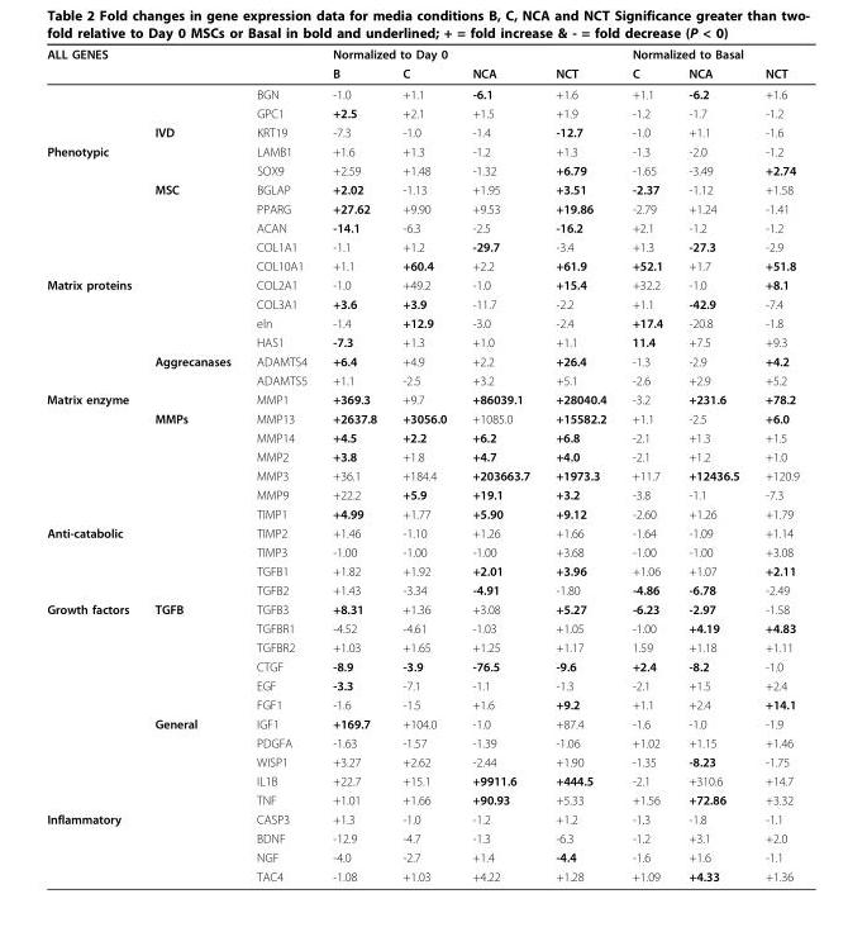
<table><thead><tr><td colspan="3">ALL GENES</td><td colspan="4">Normalized to Day 0</td><td colspan="3">Normalized to Basal</td></tr><tr><td></td><td></td><td></td><td>B</td><td>C</td><td>NCA</td><td>NCT</td><td>C</td><td>NCA</td><td>NCT</td></tr></thead><tbody><tr><td></td><td></td><td>BGN</td><td>-1.0</td><td>+1.1</td><td>-6.1</td><td>+1.6</td><td>+1.1</td><td>-6.2</td><td>+1.6</td></tr><tr><td></td><td></td><td>GPC1</td><td>+2.5</td><td>+2.1</td><td>+1.5</td><td>+1.9</td><td>-1.2</td><td>-1.7</td><td>-1.2</td></tr><tr><td></td><td>IVD</td><td>KRT19</td><td>-7.3</td><td>-1.0</td><td>-1.4</td><td>-12.7</td><td>-1.0</td><td>+1.1</td><td>-1.6</td></tr><tr><td rowspan="7">Phenotypic</td><td></td><td>LAMB1</td><td>+1.6</td><td>+1.3</td><td>-1.2</td><td>+1.3</td><td>-1.3</td><td>-2.0</td><td>-1.2</td></tr><tr><td></td><td>SOX9</td><td>+2.59</td><td>+1.48</td><td>-1.32</td><td>+6.79</td><td>-1.65</td><td>-3.49</td><td>+2.74</td></tr><tr><td>MSC</td><td>BGLAP</td><td>+2.02</td><td>-1.13</td><td>+1.95</td><td>+3.51</td><td>-2.37</td><td>-1.12</td><td>+1.58</td></tr><tr><td></td><td>PPARG</td><td>+27.62</td><td>+9.90</td><td>+9.53</td><td>+19.86</td><td>-2.79</td><td>+1.24</td><td>-1.41</td></tr><tr><td></td><td>ACAN</td><td>-14.1</td><td>-6.3</td><td>-2.5</td><td>-16.2</td><td>+2.1</td><td>-1.2</td><td>-1.2</td></tr><tr><td></td><td>COL1A1</td><td>-1.1</td><td>+1.2</td><td>-29.7</td><td>-3.4</td><td>+1.3</td><td>-27.3</td><td>-2.9</td></tr><tr><td></td><td>COL10A1</td><td>+1.1</td><td>+60.4</td><td>+2.2</td><td>+61.9</td><td>+52.1</td><td>+1.7</td><td>+51.8</td></tr><tr><td colspan="2">Matrix proteins</td><td>COL2A1</td><td>-1.0</td><td>+49.2</td><td>-1.0</td><td>+15.4</td><td>+32.2</td><td>-1.0</td><td>+8.1</td></tr><tr><td></td><td></td><td>COL3A1</td><td>+3.6</td><td>+3.9</td><td>-11.7</td><td>-2.2</td><td>+1.1</td><td>-42.9</td><td>-7.4</td></tr><tr><td></td><td></td><td>eln</td><td>-1.4</td><td>+12.9</td><td>-3.0</td><td>-2.4</td><td>+17.4</td><td>-20.8</td><td>-1.8</td></tr><tr><td></td><td></td><td>HAS1</td><td>-7.3</td><td>+1.3</td><td>+1.0</td><td>+1.1</td><td>11.4</td><td>+7.5</td><td>+9.3</td></tr><tr><td></td><td>Aggrecanases</td><td>ADAMTS4</td><td>+6.4</td><td>+4.9</td><td>+2.2</td><td>+26.4</td><td>-1.3</td><td>-2.9</td><td>+4.2</td></tr><tr><td></td><td></td><td>ADAMTS5</td><td>+1.1</td><td>-2.5</td><td>+3.2</td><td>+5.1</td><td>-2.6</td><td>+2.9</td><td>+5.2</td></tr><tr><td rowspan="7">Matrix enzyme</td><td></td><td>MMP1</td><td>+369.3</td><td>+9.7</td><td>+86039.1</td><td>+28040.4</td><td>-3.2</td><td>+231.6</td><td>+78.2</td></tr><tr><td>MMPs</td><td>MMP13</td><td>+2637.8</td><td>+3056.0</td><td>+1085.0</td><td>+15582.2</td><td>+1.1</td><td>-2.5</td><td>+6.0</td></tr><tr><td></td><td>MMP14</td><td>+4.5</td><td>+2.2</td><td>+6.2</td><td>+6.8</td><td>-2.1</td><td>+1.3</td><td>+1.5</td></tr><tr><td></td><td>MMP2</td><td>+3.8</td><td>+1.8</td><td>+4.7</td><td>+4.0</td><td>-2.1</td><td>+1.2</td><td>+1.0</td></tr><tr><td></td><td>MMP3</td><td>+36.1</td><td>+184.4</td><td>+203663.7</td><td>+1973.3</td><td>+11.7</td><td>+12436.5</td><td>+120.9</td></tr><tr><td></td><td>MMP9</td><td>+22.2</td><td>+5.9</td><td>+19.1</td><td>+3.2</td><td>-3.8</td><td>-1.1</td><td>-7.3</td></tr><tr><td></td><td>TIMP1</td><td>+4.99</td><td>+1.77</td><td>+5.90</td><td>+9.12</td><td>-2.60</td><td>+1.26</td><td>+1.79</td></tr><tr><td colspan="2">Anti-catabolic</td><td>TIMP2</td><td>+1.46</td><td>-1.10</td><td>+1.26</td><td>+1.66</td><td>-1.64</td><td>-1.09</td><td>+1.14</td></tr><tr><td></td><td></td><td>TIMP3</td><td>-1.00</td><td>-1.00</td><td>-1.00</td><td>+3.68</td><td>-1.00</td><td>-1.00</td><td>+3.08</td></tr><tr><td></td><td></td><td>TGFB1</td><td>+1.82</td><td>+1.92</td><td>+2.01</td><td>+3.96</td><td>+1.06</td><td>+1.07</td><td>+2.11</td></tr><tr><td></td><td></td><td>TGFB2</td><td>+1.43</td><td>-3.34</td><td>-4.91</td><td>-1.80</td><td>-4.86</td><td>-6.78</td><td>-2.49</td></tr><tr><td rowspan="11">Growth factors</td><td>TGFB</td><td>TGFB3</td><td>+8.31</td><td>+1.36</td><td>+3.08</td><td>+5.27</td><td>-6.23</td><td>-2.97</td><td>-1.58</td></tr><tr><td></td><td>TGFBR1</td><td>-4.52</td><td>-4.61</td><td>-1.03</td><td>+1.05</td><td>-1.00</td><td>+4.19</td><td>+4.83</td></tr><tr><td></td><td>TGFBR2</td><td>+1.03</td><td>+1.65</td><td>+1.25</td><td>+1.17</td><td>1.59</td><td>+1.18</td><td>+1.11</td></tr><tr><td></td><td>CTGF</td><td>-8.9</td><td>-3.9</td><td>-76.5</td><td>-9.6</td><td>+2.4</td><td>-8.2</td><td>-1.0</td></tr><tr><td></td><td>EGF</td><td>-3.3</td><td>-7.1</td><td>-1.1</td><td>-1.3</td><td>-2.1</td><td>+1.5</td><td>+2.4</td></tr><tr><td></td><td>FGF1</td><td>-1.6</td><td>-1.5</td><td>+1.6</td><td>+9.2</td><td>+1.1</td><td>+2.4</td><td>+14.1</td></tr><tr><td>General</td><td>IGF1</td><td>+169.7</td><td>+104.0</td><td>-1.0</td><td>+87.4</td><td>-1.6</td><td>-1.0</td><td>-1.9</td></tr><tr><td></td><td>PDGFA</td><td>-1.63</td><td>-1.57</td><td>-1.39</td><td>-1.06</td><td>+1.02</td><td>+1.15</td><td>+1.46</td></tr><tr><td></td><td>WISP1</td><td>+3.27</td><td>+2.62</td><td>-2.44</td><td>+1.90</td><td>-1.35</td><td>-8.23</td><td>-1.75</td></tr><tr><td></td><td>IL1B</td><td>+22.7</td><td>+15.1</td><td>+9911.6</td><td>+444.5</td><td>-2.1</td><td>+310.6</td><td>+14.7</td></tr><tr><td></td><td>TNF</td><td>+1.01</td><td>+1.66</td><td>+90.93</td><td>+5.33</td><td>+1.56</td><td>+72.86</td><td>+3.32</td></tr><tr><td colspan="2">Inflammatory</td><td>CASP3</td><td>+1.3</td><td>-1.0</td><td>-1.2</td><td>+1.2</td><td>-1.3</td><td>-1.8</td><td>-1.1</td></tr><tr><td></td><td></td><td>BDNF</td><td>-12.9</td><td>-4.7</td><td>-1.3</td><td>-6.3</td><td>-1.2</td><td>+3.1</td><td>+2.0</td></tr><tr><td></td><td></td><td>NGF</td><td>-4.0</td><td>-2.7</td><td>+1.4</td><td>-4.4</td><td>-1.6</td><td>+1.6</td><td>-1.1</td></tr><tr><td></td><td></td><td>TAC4</td><td>-1.08</td><td>+1.03</td><td>+4.22</td><td>+1.28</td><td>+1.09</td><td>+4.33</td><td>+1.36</td></tr></tbody></table>